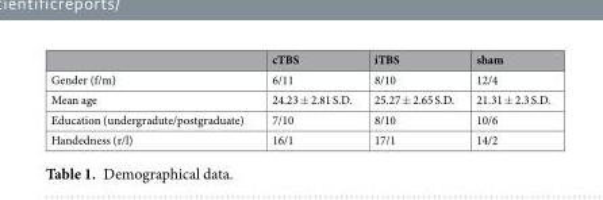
<table><thead><tr><td></td><td>cTBS</td><td>iTBS</td><td>sham</td></tr></thead><tbody><tr><td>Gender (f/m)</td><td>6/11</td><td>8/10</td><td>12/4</td></tr><tr><td>Mean age</td><td>24.23 ± 2.81 S.D.</td><td>25.27 ± 2.65 S.D.</td><td>21.31 ± 2.3 S.D.</td></tr><tr><td>Education (undergradute/postgraduate)</td><td>7/10</td><td>8/10</td><td>10/6</td></tr><tr><td>Handedness (r/l)</td><td>16/1</td><td>17/1</td><td>14/2</td></tr></tbody></table>